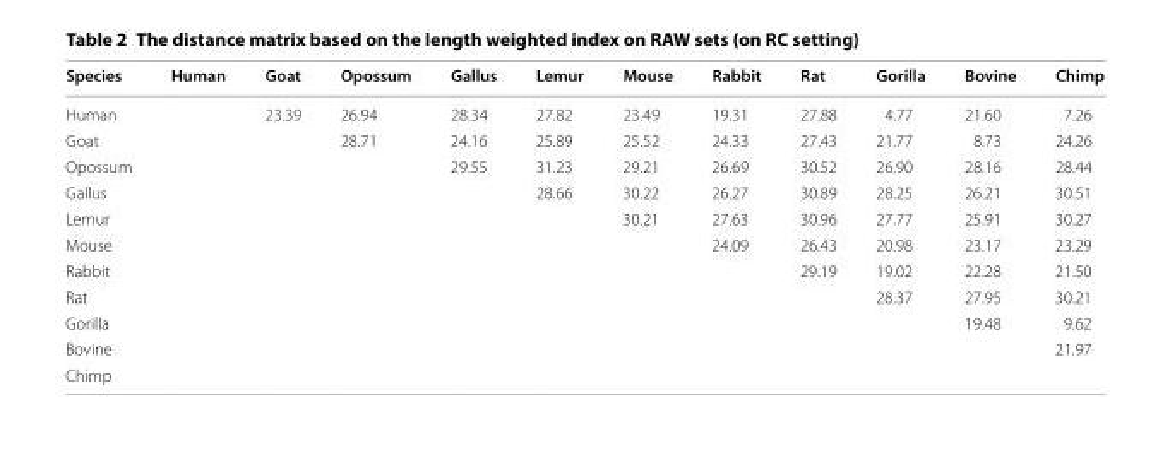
<table><thead><tr><td>Species</td><td>Human</td><td>Goat</td><td>Opossum</td><td>Gallus</td><td>Lemur</td><td>Mouse</td><td>Rabbit</td><td>Rat</td><td>Gorilla</td><td>Bovine</td><td>Chimp</td></tr></thead><tbody><tr><td>Human</td><td></td><td>23.39</td><td>26.94</td><td>28.34</td><td>27.82</td><td>23.49</td><td>19.31</td><td>27.88</td><td>4.77</td><td>21.60</td><td>7.26</td></tr><tr><td>Goat</td><td></td><td></td><td>28.71</td><td>24.16</td><td>25.89</td><td>25.52</td><td>24.33</td><td>27.43</td><td>21.77</td><td>8.73</td><td>24.26</td></tr><tr><td>Opossum</td><td></td><td></td><td></td><td>29.55</td><td>31.23</td><td>29.21</td><td>26.69</td><td>30.52</td><td>26.90</td><td>28.16</td><td>28.44</td></tr><tr><td>Gallus</td><td></td><td></td><td></td><td></td><td>28.66</td><td>30.22</td><td>26.27</td><td>30.89</td><td>28.25</td><td>26.21</td><td>30.51</td></tr><tr><td>Lemur</td><td></td><td></td><td></td><td></td><td></td><td>30.21</td><td>27.63</td><td>30.96</td><td>27.77</td><td>25.91</td><td>30.27</td></tr><tr><td>Mouse</td><td></td><td></td><td></td><td></td><td></td><td></td><td>24.09</td><td>26.43</td><td>20.98</td><td>23.17</td><td>23.29</td></tr><tr><td>Rabbit</td><td></td><td></td><td></td><td></td><td></td><td></td><td></td><td>29.19</td><td>19.02</td><td>22.28</td><td>21.50</td></tr><tr><td>Rat</td><td></td><td></td><td></td><td></td><td></td><td></td><td></td><td></td><td>28.37</td><td>27.95</td><td>30.21</td></tr><tr><td>Gorilla</td><td></td><td></td><td></td><td></td><td></td><td></td><td></td><td></td><td></td><td>19.48</td><td>9.62</td></tr><tr><td>Bovine</td><td></td><td></td><td></td><td></td><td></td><td></td><td></td><td></td><td></td><td></td><td>21.97</td></tr><tr><td>Chimp</td><td></td><td></td><td></td><td></td><td></td><td></td><td></td><td></td><td></td><td></td><td></td></tr></tbody></table>